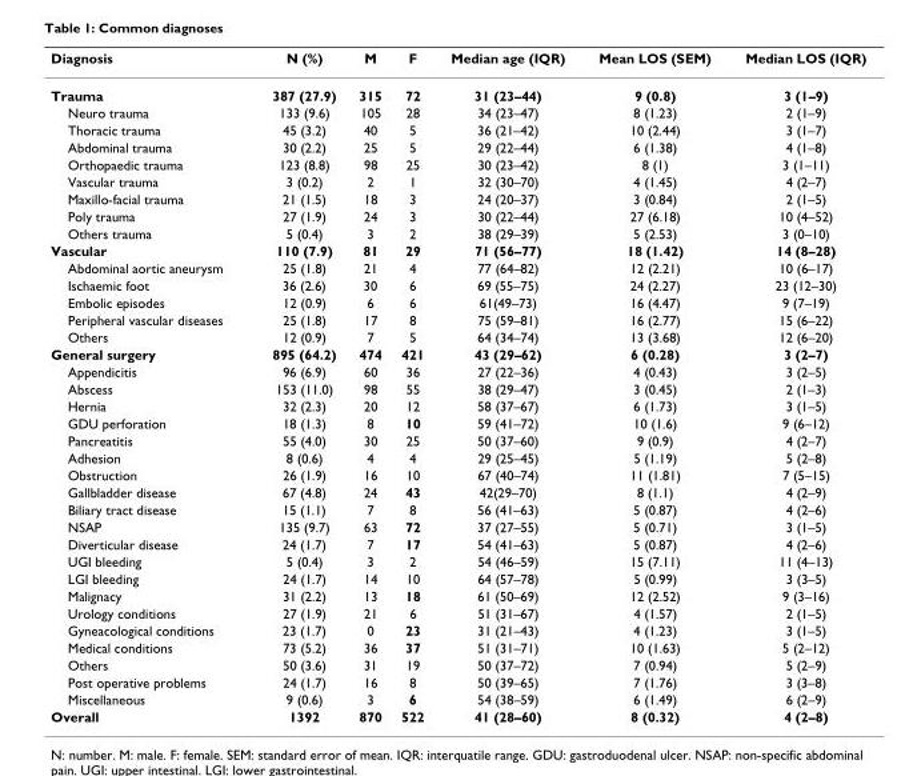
<table><thead><tr><td>Diagnosis</td><td>N (%)</td><td>M</td><td>F</td><td>Median age (IQR)</td><td>Mean LOS (SEM)</td><td>Median LOS (IQR)</td></tr></thead><tbody><tr><td>Trauma</td><td>387 (27.9)</td><td>315</td><td>72</td><td>31 (23–44)</td><td>9 (0.8)</td><td>3 (1–9)</td></tr><tr><td>Neuro trauma</td><td>133 (9.6)</td><td>105</td><td>28</td><td>34 (23–47)</td><td>8 (1.23)</td><td>2 (1–9)</td></tr><tr><td>Thoracic trauma</td><td>45 (3.2)</td><td>40</td><td>5</td><td>36 (21–42)</td><td>10 (2.44)</td><td>3 (1–7)</td></tr><tr><td>Abdominal trauma</td><td>30 (2.2)</td><td>25</td><td>5</td><td>29 (22–44)</td><td>6 (1.38)</td><td>4 (1–8)</td></tr><tr><td>Orthopaedic trauma</td><td>123 (8.8)</td><td>98</td><td>25</td><td>30 (23–42)</td><td>8 (1)</td><td>3 (1–11)</td></tr><tr><td>Vascular trauma</td><td>3 (0.2)</td><td>2</td><td>1</td><td>32 (30–70)</td><td>4 (1.45)</td><td>4 (2–7)</td></tr><tr><td>Maxillo-facial trauma</td><td>21 (1.5)</td><td>18</td><td>3</td><td>24 (20–37)</td><td>3 (0.84)</td><td>2 (1–5)</td></tr><tr><td>Poly trauma</td><td>27 (1.9)</td><td>24</td><td>3</td><td>30 (22–44)</td><td>27 (6.18)</td><td>10 (4–52)</td></tr><tr><td>Others trauma</td><td>5 (0.4)</td><td>3</td><td>2</td><td>38 (29–39)</td><td>5 (2.53)</td><td>3 (0–10)</td></tr><tr><td>Vascular</td><td>110 (7.9)</td><td>81</td><td>29</td><td>71 (56–77)</td><td>18 (1.42)</td><td>14 (8–28)</td></tr><tr><td>Abdominal aortic aneurysm</td><td>25 (1.8)</td><td>21</td><td>4</td><td>77 (64–82)</td><td>12 (2.21)</td><td>10 (6–17)</td></tr><tr><td>Ischaemic foot</td><td>36 (2.6)</td><td>30</td><td>6</td><td>69 (55–75)</td><td>24 (2.27)</td><td>23 (12–30)</td></tr><tr><td>Embolic episodes</td><td>12 (0.9)</td><td>6</td><td>6</td><td>61(49–73)</td><td>16 (4.47)</td><td>9 (7–19)</td></tr><tr><td>Peripheral vascular diseases</td><td>25 (1.8)</td><td>17</td><td>8</td><td>75 (59–81)</td><td>16 (2.77)</td><td>15 (6–22)</td></tr><tr><td>Others</td><td>12 (0.9)</td><td>7</td><td>5</td><td>64 (34–74)</td><td>13 (3.68)</td><td>12 (6–20)</td></tr><tr><td>General surgery</td><td>895 (64.2)</td><td>474</td><td>421</td><td>43 (29–62)</td><td>6 (0.28)</td><td>3 (2–7)</td></tr><tr><td>Appendicitis</td><td>96 (6.9)</td><td>60</td><td>36</td><td>27 (22–36)</td><td>4 (0.43)</td><td>3 (2–5)</td></tr><tr><td>Abscess</td><td>153 (11.0)</td><td>98</td><td>55</td><td>38 (29–47)</td><td>3 (0.45)</td><td>2 (1–3)</td></tr><tr><td>Hernia</td><td>32 (2.3)</td><td>20</td><td>12</td><td>58 (37–67)</td><td>6 (1.73)</td><td>3 (1–5)</td></tr><tr><td>GDU perforation</td><td>18 (1.3)</td><td>8</td><td>10</td><td>59 (41–72)</td><td>10 (1.6)</td><td>9 (6–12)</td></tr><tr><td>Pancreatitis</td><td>55 (4.0)</td><td>30</td><td>25</td><td>50 (37–60)</td><td>9 (0.9)</td><td>4 (2–7)</td></tr><tr><td>Adhesion</td><td>8 (0.6)</td><td>4</td><td>4</td><td>29 (25–45)</td><td>5 (1.19)</td><td>5 (2–8)</td></tr><tr><td>Obstruction</td><td>26 (1.9)</td><td>16</td><td>10</td><td>67 (40–74)</td><td>11 (1.81)</td><td>7 (5–15)</td></tr><tr><td>Gallbladder disease</td><td>67 (4.8)</td><td>24</td><td>43</td><td>42(29–70)</td><td>8 (1.1)</td><td>4 (2–9)</td></tr><tr><td>Biliary tract disease</td><td>15 (1.1)</td><td>7</td><td>8</td><td>56 (41–63)</td><td>5 (0.87)</td><td>4 (2–6)</td></tr><tr><td>NSAP</td><td>135 (9.7)</td><td>63</td><td>72</td><td>37 (27–55)</td><td>5 (0.71)</td><td>3 (1–5)</td></tr><tr><td>Diverticular disease</td><td>24 (1.7)</td><td>7</td><td>17</td><td>54 (41–63)</td><td>5 (0.87)</td><td>4 (2–6)</td></tr><tr><td>UGI bleeding</td><td>5 (0.4)</td><td>3</td><td>2</td><td>54 (46–59)</td><td>15 (7.11)</td><td>11 (4–13)</td></tr><tr><td>LGI bleeding</td><td>24 (1.7)</td><td>14</td><td>10</td><td>64 (57–78)</td><td>5 (0.99)</td><td>3 (3–5)</td></tr><tr><td>Malignacy</td><td>31 (2.2)</td><td>13</td><td>18</td><td>61 (50–69)</td><td>12 (2.52)</td><td>9 (3–16)</td></tr><tr><td>Urology conditions</td><td>27 (1.9)</td><td>21</td><td>6</td><td>51 (31–67)</td><td>4 (1.57)</td><td>2 (1–5)</td></tr><tr><td>Gyneacological conditions</td><td>23 (1.7)</td><td>0</td><td>23</td><td>31 (21–43)</td><td>4 (1.23)</td><td>3 (1–5)</td></tr><tr><td>Medical conditions</td><td>73 (5.2)</td><td>36</td><td>37</td><td>51 (31–71)</td><td>10 (1.63)</td><td>5 (2–12)</td></tr><tr><td>Others</td><td>50 (3.6)</td><td>31</td><td>19</td><td>50 (37–72)</td><td>7 (0.94)</td><td>5 (2–9)</td></tr><tr><td>Post operative problems</td><td>24 (1.7)</td><td>16</td><td>8</td><td>50 (39–65)</td><td>7 (1.76)</td><td>3 (3–8)</td></tr><tr><td>Miscellaneous</td><td>9 (0.6)</td><td>3</td><td>6</td><td>54 (38–59)</td><td>6 (1.49)</td><td>6 (2–9)</td></tr><tr><td>Overall</td><td>1392</td><td>870</td><td>522</td><td>41 (28–60)</td><td>8 (0.32)</td><td>4 (2–8)</td></tr></tbody></table>